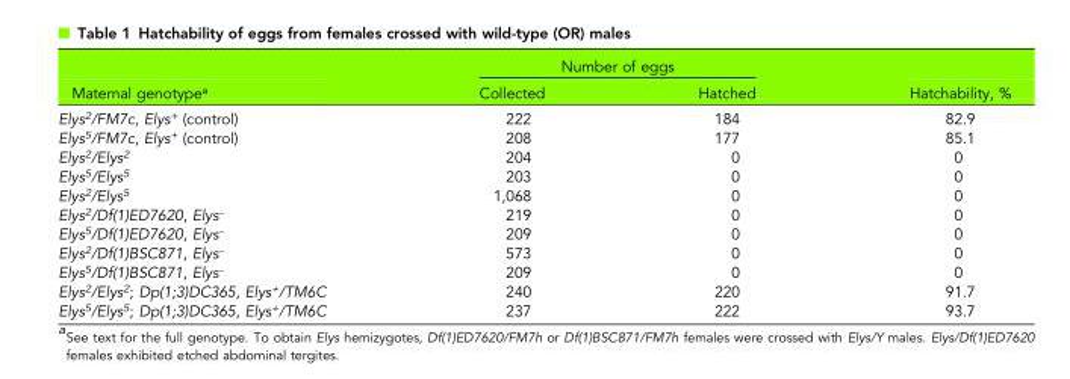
<table><thead><tr><td rowspan="2">Maternal genotype<sup>a</sup></td><td colspan="2">Number of eggs</td><td rowspan="2">Hatchability, %</td></tr><tr><td>Collected</td><td>Hatched</td></tr></thead><tbody><tr><td>Elys<sup>2</sup>/FM7c, Elys<sup>+</sup> (control)</td><td>222</td><td>184</td><td>82.9</td></tr><tr><td>Elys<sup>5</sup>/FM7c, Elys<sup>+</sup> (control)</td><td>208</td><td>177</td><td>85.1</td></tr><tr><td>Elys<sup>2</sup>/Elys<sup>2</sup></td><td>204</td><td>0</td><td>0</td></tr><tr><td>Elys<sup>5</sup>/Elys<sup>5</sup></td><td>203</td><td>0</td><td>0</td></tr><tr><td>Elys<sup>2</sup>/Elys<sup>5</sup></td><td>1,068</td><td>0</td><td>0</td></tr><tr><td>Elys<sup>2</sup>/Df(1)ED7620, Elys<sup>–</sup></td><td>219</td><td>0</td><td>0</td></tr><tr><td>Elys<sup>5</sup>/Df(1)ED7620, Elys<sup>–</sup></td><td>209</td><td>0</td><td>0</td></tr><tr><td>Elys<sup>2</sup>/Df(1)BSC871, Elys<sup>–</sup></td><td>573</td><td>0</td><td>0</td></tr><tr><td>Elys<sup>5</sup>/Df(1)BSC871, Elys<sup>–</sup></td><td>209</td><td>0</td><td>0</td></tr><tr><td>Elys<sup>2</sup>/Elys<sup>2</sup>; Dp(1;3)DC365, Elys<sup>+</sup>/TM6C</td><td>240</td><td>220</td><td>91.7</td></tr><tr><td>Elys<sup>5</sup>/Elys<sup>5</sup>; Dp(1;3)DC365, Elys<sup>+</sup>/TM6C</td><td>237</td><td>222</td><td>93.7</td></tr></tbody></table>